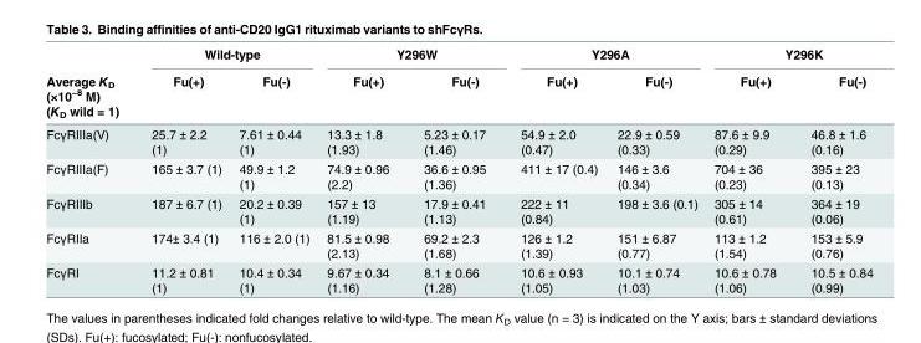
<table><thead><tr><td rowspan="2">Average K<sub>D</sub> (×10<sup>−8</sup> M) (K<sub>D</sub> wild = 1)</td><td colspan="2">Wild-type</td><td colspan="2">Y296W</td><td colspan="2">Y296A</td><td colspan="2">Y296K</td></tr><tr><td>Fu(+)</td><td>Fu(-)</td><td>Fu(+)</td><td>Fu(-)</td><td>Fu(+)</td><td>Fu(-)</td><td>Fu(+)</td><td>Fu(-)</td></tr></thead><tbody><tr><td>FcγRIIIa(V)</td><td>25.7 ± 2.2 (1)</td><td>7.61 ± 0.44 (1)</td><td>13.3 ± 1.8 (1.93)</td><td>5.23 ± 0.17 (1.46)</td><td>54.9 ± 2.0 (0.47)</td><td>22.9 ± 0.59 (0.33)</td><td>87.6 ± 9.9 (0.29)</td><td>46.8 ± 1.6 (0.16)</td></tr><tr><td>FcγRIIIa(F)</td><td>165 ± 3.7 (1)</td><td>49.9 ± 1.2 (1)</td><td>74.9 ± 0.96 (2.2)</td><td>36.6 ± 0.95 (1.36)</td><td>411 ± 17 (0.4)</td><td>146 ± 3.6 (0.34)</td><td>704 ± 36 (0.23)</td><td>395 ± 23 (0.13)</td></tr><tr><td>FcγRIIIb</td><td>187 ± 6.7 (1)</td><td>20.2 ± 0.39 (1)</td><td>157 ± 13 (1.19)</td><td>17.9 ± 0.41 (1.13)</td><td>222 ± 11 (0.84)</td><td>198 ± 3.6 (0.1)</td><td>305 ± 14 (0.61)</td><td>364 ± 19 (0.06)</td></tr><tr><td>FcγRIIa</td><td>174± 3.4 (1)</td><td>116 ± 2.0 (1)</td><td>81.5 ± 0.98 (2.13)</td><td>69.2 ± 2.3 (1.68)</td><td>126 ± 1.2 (1.39)</td><td>151 ± 6.87 (0.77)</td><td>113 ± 1.2 (1.54)</td><td>153 ± 5.9 (0.76)</td></tr><tr><td>FcγRI</td><td>11.2 ± 0.81 (1)</td><td>10.4 ± 0.34 (1)</td><td>9.67 ± 0.34 (1.16)</td><td>8.1 ± 0.66 (1.28)</td><td>10.6 ± 0.93 (1.05)</td><td>10.1 ± 0.74 (1.03)</td><td>10.6 ± 0.78 (1.06)</td><td>10.5 ± 0.84 (0.99)</td></tr></tbody></table>